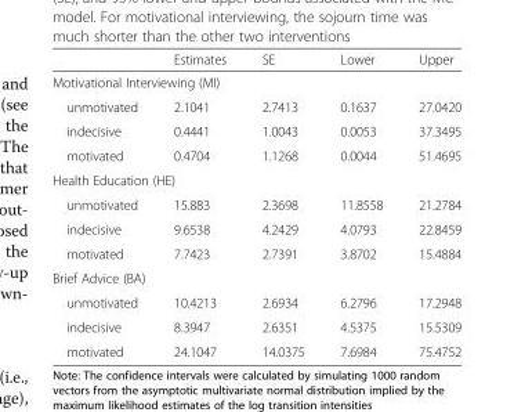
<table><thead><tr><td></td><td>Estimates</td><td>SE</td><td>Lower</td><td>Upper</td></tr></thead><tbody><tr><td colspan="5">Motivational Interviewing (MI)</td></tr><tr><td>unmotivated</td><td>2.1041</td><td>2.7413</td><td>0.1637</td><td>27.0420</td></tr><tr><td>indecisive</td><td>0.4441</td><td>1.0043</td><td>0.0053</td><td>37.3495</td></tr><tr><td>motivated</td><td>0.4704</td><td>1.1268</td><td>0.0044</td><td>51.4695</td></tr><tr><td colspan="5">Health Education (HE)</td></tr><tr><td>unmotivated</td><td>15.883</td><td>2.3698</td><td>11.8558</td><td>21.2784</td></tr><tr><td>indecisive</td><td>9.6538</td><td>4.2429</td><td>4.0793</td><td>22.8459</td></tr><tr><td>motivated</td><td>7.7423</td><td>2.7391</td><td>3.8702</td><td>15.4884</td></tr><tr><td colspan="5">Brief Advice (BA)</td></tr><tr><td>unmotivated</td><td>10.4213</td><td>2.6934</td><td>6.2796</td><td>17.2948</td></tr><tr><td>indecisive</td><td>8.3947</td><td>2.6351</td><td>4.5375</td><td>15.5309</td></tr><tr><td>motivated</td><td>24.1047</td><td>14.0375</td><td>7.6984</td><td>75.4752</td></tr></tbody></table>